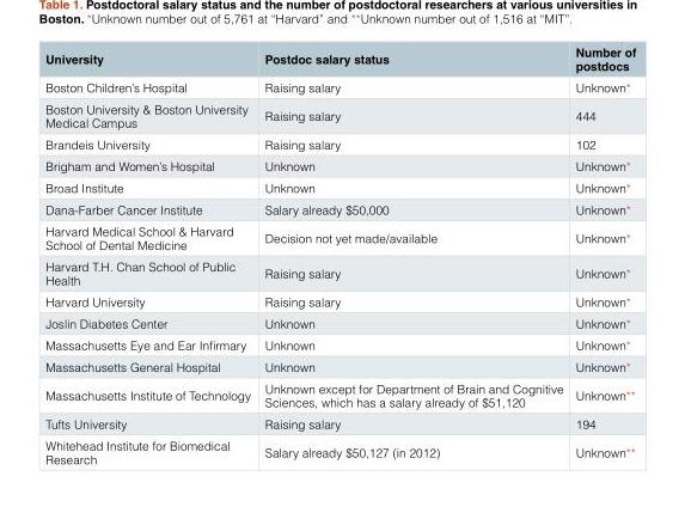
<table><thead><tr><td>University</td><td>Postdoc salary status</td><td>Number of postdocs</td></tr></thead><tbody><tr><td>Boston Children’s Hospital</td><td>Raising salary</td><td>Unknown*</td></tr><tr><td>Boston University &amp; Boston University Medical Campus</td><td>Raising salary</td><td>444</td></tr><tr><td>Brandeis University</td><td>Raising salary</td><td>102</td></tr><tr><td>Brigham and Women’s Hospital</td><td>Unknown</td><td>Unknown*</td></tr><tr><td>Broad Institute</td><td>Unknown</td><td>Unknown*</td></tr><tr><td>Dana-Farber Cancer Institute</td><td>Salary already $50,000</td><td>Unknown*</td></tr><tr><td>Harvard Medical School &amp; Harvard School of Dental Medicine</td><td>Decision not yet made/available</td><td>Unknown*</td></tr><tr><td>Harvard T.H. Chan School of Public Health</td><td>Raising salary</td><td>Unknown*</td></tr><tr><td>Harvard University</td><td>Raising salary</td><td>Unknown*</td></tr><tr><td>Joslin Diabetes Center</td><td>Unknown</td><td>Unknown*</td></tr><tr><td>Massachusetts Eye and Ear Infirmary</td><td>Unknown</td><td>Unknown*</td></tr><tr><td>Massachusetts General Hospital</td><td>Unknown</td><td>Unknown*</td></tr><tr><td>Massachusetts Institute of Technology</td><td>Unknown except for Department of Brain and Cognitive Sciences, which has a salary already of $51,120</td><td>Unknown**</td></tr><tr><td>Tufts University</td><td>Raising salary</td><td>194</td></tr><tr><td>Whitehead Institute for Biomedical Research</td><td>Salary already $50,127 (in 2012)</td><td>Unknown**</td></tr></tbody></table>